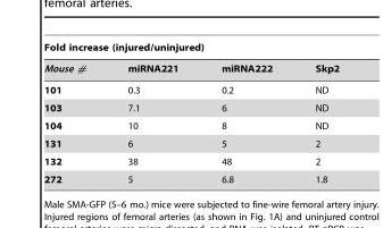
<table><thead><tr><td colspan="4">Fold increase (injured/uninjured)</td></tr><tr><td>Mouse #</td><td>miRNA221</td><td>miRNA222</td><td>Skp2</td></tr></thead><tbody><tr><td>101</td><td>0.3</td><td>0.2</td><td>ND</td></tr><tr><td>103</td><td>7.1</td><td>6</td><td>ND</td></tr><tr><td>104</td><td>10</td><td>8</td><td>ND</td></tr><tr><td>131</td><td>6</td><td>5</td><td>2</td></tr><tr><td>132</td><td>38</td><td>48</td><td>2</td></tr><tr><td>272</td><td>5</td><td>6.8</td><td>1.8</td></tr></tbody></table>